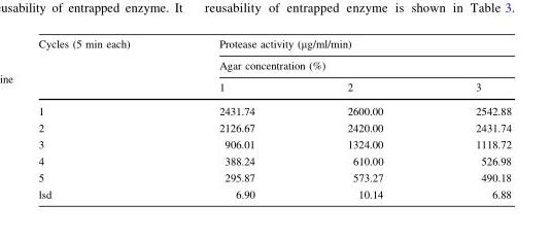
<table><thead><tr><td rowspan="3">Cycles (5 min each)</td><td rowspan="2" colspan="3">Protease activity (µg/ml/min) Agar concentration (%)</td></tr><tr></tr><tr><td>1</td><td>2</td><td>3</td></tr></thead><tbody><tr><td>1</td><td>2431.74</td><td>2600.00</td><td>2542.88</td></tr><tr><td>2</td><td>2126.67</td><td>2420.00</td><td>2431.74</td></tr><tr><td>3</td><td>906.01</td><td>1324.00</td><td>1118.72</td></tr><tr><td>4</td><td>388.24</td><td>610.00</td><td>526.98</td></tr><tr><td>5</td><td>295.87</td><td>573.27</td><td>490.18</td></tr><tr><td>lsd</td><td>6.90</td><td>10.14</td><td>6.88</td></tr></tbody></table>